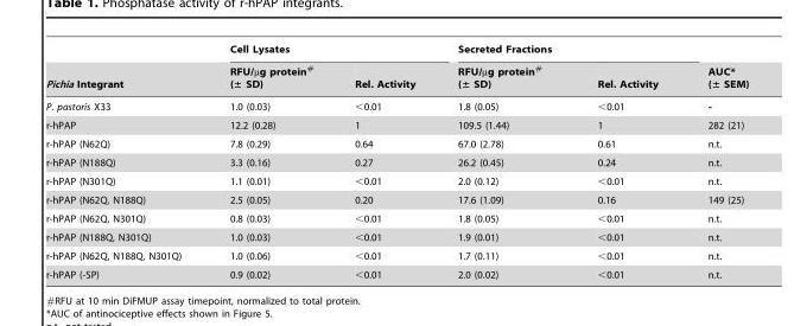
<table><thead><tr><td rowspan="2">Pichia Integrant</td><td colspan="2">Cell Lysates</td><td colspan="2">Secreted Fractions</td><td rowspan="2">AUC* (± SEM)</td></tr><tr><td>RFU/µg protein# (± SD)</td><td>Rel. Activity</td><td>RFU/µg protein# (± SD)</td><td>Rel. Activity</td></tr></thead><tbody><tr><td>P. pastoris X33</td><td>1.0 (0.03)</td><td>&lt;0.01</td><td>1.8 (0.05)</td><td>&lt;0.01</td><td>-</td></tr><tr><td>r-hPAP</td><td>12.2 (0.28)</td><td>1</td><td>109.5 (1.44)</td><td>1</td><td>282 (21)</td></tr><tr><td>r-hPAP (N62Q)</td><td>7.8 (0.29)</td><td>0.64</td><td>67.0 (2.78)</td><td>0.61</td><td>n.t.</td></tr><tr><td>r-hPAP (N188Q)</td><td>3.3 (0.16)</td><td>0.27</td><td>26.2 (0.45)</td><td>0.24</td><td>n.t.</td></tr><tr><td>r-hPAP (N301Q)</td><td>1.1 (0.01)</td><td>&lt;0.01</td><td>2.0 (0.12)</td><td>&lt;0.01</td><td>n.t.</td></tr><tr><td>r-hPAP (N62Q, N188Q)</td><td>2.5 (0.05)</td><td>0.20</td><td>17.6 (1.09)</td><td>0.16</td><td>149 (25)</td></tr><tr><td>r-hPAP (N62Q, N301Q)</td><td>0.8 (0.03)</td><td>&lt;0.01</td><td>1.8 (0.05)</td><td>&lt;0.01</td><td>n.t.</td></tr><tr><td>r-hPAP (N188Q, N301Q)</td><td>1.0 (0.03)</td><td>&lt;0.01</td><td>1.9 (0.01)</td><td>&lt;0.01</td><td>n.t.</td></tr><tr><td>r-hPAP (N62Q, N188Q, N301Q)</td><td>1.0 (0.06)</td><td>&lt;0.01</td><td>1.7 (0.11)</td><td>&lt;0.01</td><td>n.t.</td></tr><tr><td>r-hPAP (-SP)</td><td>0.9 (0.02)</td><td>&lt;0.01</td><td>2.0 (0.02)</td><td>&lt;0.01</td><td>n.t.</td></tr></tbody></table>